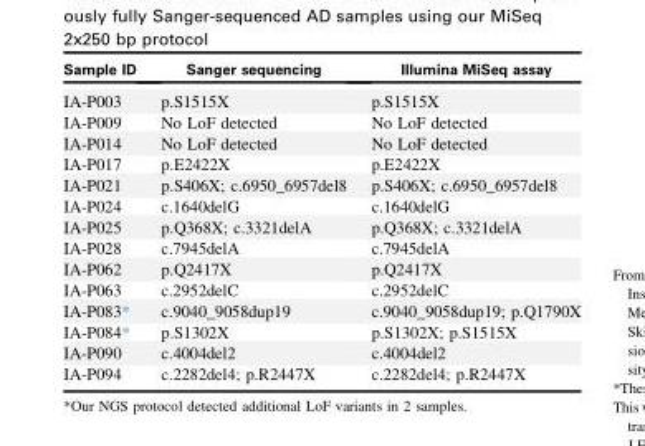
<table><thead><tr><td>Sample ID</td><td>Sanger sequencing</td><td>Illumina MiSeq assay</td></tr></thead><tbody><tr><td>IA-P003</td><td>p.S1515X</td><td>p.S1515X</td></tr><tr><td>IA-P009</td><td>No LoF detected</td><td>No LoF detected</td></tr><tr><td>IA-P014</td><td>No LoF detected</td><td>No LoF detected</td></tr><tr><td>IA-P017</td><td>p.E2422X</td><td>p.E2422X</td></tr><tr><td>IA-P021</td><td>p.S406X; c.6950_6957del8</td><td>p.S406X; c.6950_6957del8</td></tr><tr><td>IA-P024</td><td>c.1640delG</td><td>c.1640delG</td></tr><tr><td>IA-P025</td><td>p.Q368X; c.3321delA</td><td>p.Q368X; c.3321delA</td></tr><tr><td>IA-P028</td><td>c.7945delA</td><td>c.7945delA</td></tr><tr><td>IA-P062</td><td>p.Q2417X</td><td>p.Q2417X</td></tr><tr><td>IA-P063</td><td>c.2952delC</td><td>c.2952delC</td></tr><tr><td>IA-P083*</td><td>c.9040_9058dup19</td><td>c.9040_9058dup19; p.Q1790X</td></tr><tr><td>IA-P084*</td><td>p.S1302X</td><td>p.S1302X; p.S1515X</td></tr><tr><td>IA-P090</td><td>c.4004del2</td><td>c.4004del2</td></tr><tr><td>IA-P094</td><td>c.2282del4; p.R2447X</td><td>c.2282del4; p.R2447X</td></tr></tbody></table>